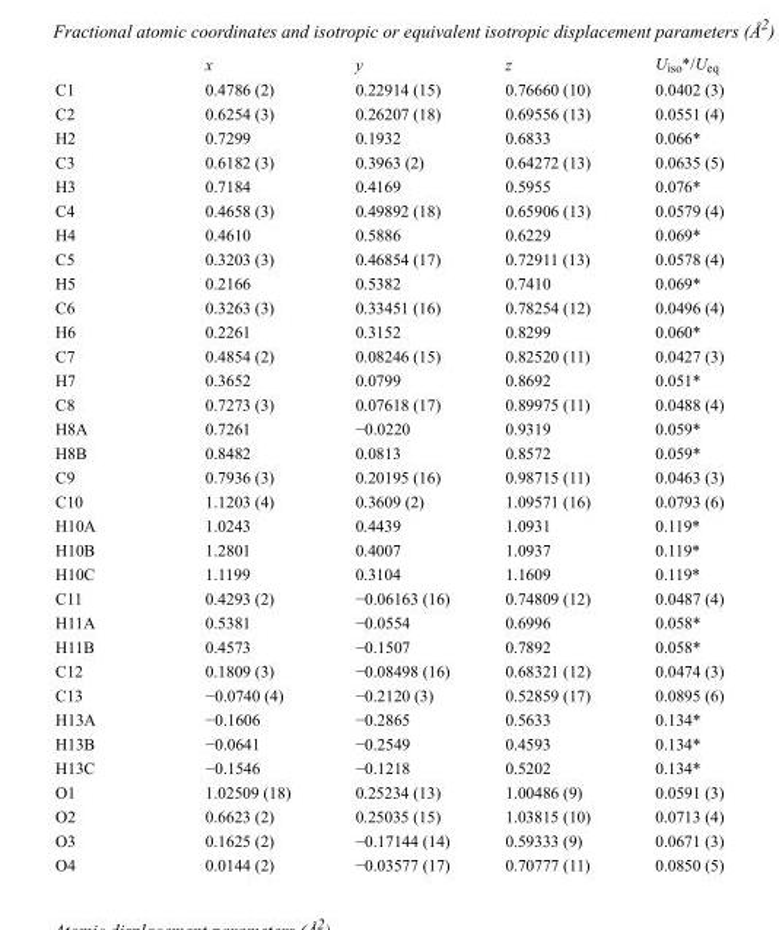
<table><thead><tr><td></td><td>x</td><td>y</td><td>z</td><td>U<sub>iso</sub>*/U<sub>eq</sub></td></tr></thead><tbody><tr><td>C1</td><td>0.4786 (2)</td><td>0.22914 (15)</td><td>0.76660 (10)</td><td>0.0402 (3)</td></tr><tr><td>C2</td><td>0.6254 (3)</td><td>0.26207 (18)</td><td>0.69556 (13)</td><td>0.0551 (4)</td></tr><tr><td>H2</td><td>0.7299</td><td>0.1932</td><td>0.6833</td><td>0.066*</td></tr><tr><td>C3</td><td>0.6182 (3)</td><td>0.3963 (2)</td><td>0.64272 (13)</td><td>0.0635 (5)</td></tr><tr><td>H3</td><td>0.7184</td><td>0.4169</td><td>0.5955</td><td>0.076*</td></tr><tr><td>C4</td><td>0.4658 (3)</td><td>0.49892 (18)</td><td>0.65906 (13)</td><td>0.0579 (4)</td></tr><tr><td>H4</td><td>0.4610</td><td>0.5886</td><td>0.6229</td><td>0.069*</td></tr><tr><td>C5</td><td>0.3203 (3)</td><td>0.46854 (17)</td><td>0.72911 (13)</td><td>0.0578 (4)</td></tr><tr><td>H5</td><td>0.2166</td><td>0.5382</td><td>0.7410</td><td>0.069*</td></tr><tr><td>C6</td><td>0.3263 (3)</td><td>0.33451 (16)</td><td>0.78254 (12)</td><td>0.0496 (4)</td></tr><tr><td>H6</td><td>0.2261</td><td>0.3152</td><td>0.8299</td><td>0.060*</td></tr><tr><td>C7</td><td>0.4854 (2)</td><td>0.08246 (15)</td><td>0.82520 (11)</td><td>0.0427 (3)</td></tr><tr><td>H7</td><td>0.3652</td><td>0.0799</td><td>0.8692</td><td>0.051*</td></tr><tr><td>C8</td><td>0.7273 (3)</td><td>0.07618 (17)</td><td>0.89975 (11)</td><td>0.0488 (4)</td></tr><tr><td>H8A</td><td>0.7261</td><td>−0.0220</td><td>0.9319</td><td>0.059*</td></tr><tr><td>H8B</td><td>0.8482</td><td>0.0813</td><td>0.8572</td><td>0.059*</td></tr><tr><td>C9</td><td>0.7936 (3)</td><td>0.20195 (16)</td><td>0.98715 (11)</td><td>0.0463 (3)</td></tr><tr><td>C10</td><td>1.1203 (4)</td><td>0.3609 (2)</td><td>1.09571 (16)</td><td>0.0793 (6)</td></tr><tr><td>H10A</td><td>1.0243</td><td>0.4439</td><td>1.0931</td><td>0.119*</td></tr><tr><td>H10B</td><td>1.2801</td><td>0.4007</td><td>1.0937</td><td>0.119*</td></tr><tr><td>H10C</td><td>1.1199</td><td>0.3104</td><td>1.1609</td><td>0.119*</td></tr><tr><td>C11</td><td>0.4293 (2)</td><td>−0.06163 (16)</td><td>0.74809 (12)</td><td>0.0487 (4)</td></tr><tr><td>H11A</td><td>0.5381</td><td>−0.0554</td><td>0.6996</td><td>0.058*</td></tr><tr><td>H11B</td><td>0.4573</td><td>−0.1507</td><td>0.7892</td><td>0.058*</td></tr><tr><td>C12</td><td>0.1809 (3)</td><td>−0.08498 (16)</td><td>0.68321 (12)</td><td>0.0474 (3)</td></tr><tr><td>C13</td><td>−0.0740 (4)</td><td>−0.2120 (3)</td><td>0.52859 (17)</td><td>0.0895 (6)</td></tr><tr><td>H13A</td><td>−0.1606</td><td>−0.2865</td><td>0.5633</td><td>0.134*</td></tr><tr><td>H13B</td><td>−0.0641</td><td>−0.2549</td><td>0.4593</td><td>0.134*</td></tr><tr><td>H13C</td><td>−0.1546</td><td>−0.1218</td><td>0.5202</td><td>0.134*</td></tr><tr><td>O1</td><td>1.02509 (18)</td><td>0.25234 (13)</td><td>1.00486 (9)</td><td>0.0591 (3)</td></tr><tr><td>O2</td><td>0.6623 (2)</td><td>0.25035 (15)</td><td>1.03815 (10)</td><td>0.0713 (4)</td></tr><tr><td>O3</td><td>0.1625 (2)</td><td>−0.17144 (14)</td><td>0.59333 (9)</td><td>0.0671 (3)</td></tr><tr><td>O4</td><td>0.0144 (2)</td><td>−0.03577 (17)</td><td>0.70777 (11)</td><td>0.0850 (5)</td></tr></tbody></table>